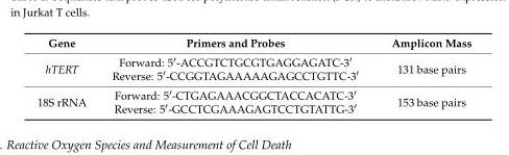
<table><thead><tr><td>Gene</td><td>Primers and Probes</td><td>Amplicon Mass</td></tr></thead><tbody><tr><td>hTERT</td><td>Forward: 5′-ACCGTCTGCGTGAGGAGATC-3′ Reverse: 5′-CCGGTAGAAAAAGAGCCTGTTC-3′</td><td>131 base pairs</td></tr><tr><td>18S rRNA</td><td>Forward: 5′-CTGAGAAACGGCTACCACATC-3′ Reverse: 5′-GCCTCGAAAGAGTCCTGTATTG-3′</td><td>153 base pairs</td></tr></tbody></table>